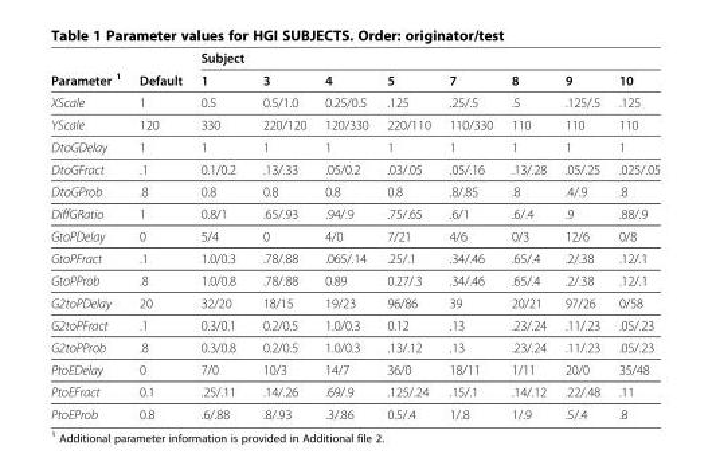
<table><thead><tr><td rowspan="2">Parameter <sup>1</sup></td><td rowspan="2">Default</td><td rowspan="2">Subject 1</td><td rowspan="2">3</td><td rowspan="2">4</td><td rowspan="2">5</td><td rowspan="2">7</td><td rowspan="2">8</td><td rowspan="2">9</td><td rowspan="2">10</td></tr><tr></tr></thead><tbody><tr><td>XScale</td><td>1</td><td>0.5</td><td>0.5/1.0</td><td>0.25/0.5</td><td>.125</td><td>.25/.5</td><td>.5</td><td>.125/.5</td><td>.125</td></tr><tr><td>YScale</td><td>120</td><td>330</td><td>220/120</td><td>120/330</td><td>220/110</td><td>110/330</td><td>110</td><td>110</td><td>110</td></tr><tr><td>DtoGDelay</td><td>1</td><td>1</td><td>1</td><td>1</td><td>1</td><td>1</td><td>1</td><td>1</td><td>1</td></tr><tr><td>DtoGFract</td><td>.1</td><td>0.1/0.2</td><td>.13/.33</td><td>.05/0.2</td><td>.03/.05</td><td>.05/.16</td><td>.13/.28</td><td>.05/.25</td><td>.025/.05</td></tr><tr><td>DtoGProb</td><td>.8</td><td>0.8</td><td>0.8</td><td>0.8</td><td>0.8</td><td>.8/.85</td><td>.8</td><td>.4/.9</td><td>.8</td></tr><tr><td>DiffGRatio</td><td>1</td><td>0.8/1</td><td>.65/.93</td><td>.94/.9</td><td>.75/.65</td><td>.6/1</td><td>.6/.4</td><td>.9</td><td>.88/.9</td></tr><tr><td>GtoPDelay</td><td>0</td><td>5/4</td><td>0</td><td>4/0</td><td>7/21</td><td>4/6</td><td>0/3</td><td>12/6</td><td>0/8</td></tr><tr><td>GtoPFract</td><td>.1</td><td>1.0/0.3</td><td>.78/.88</td><td>.065/.14</td><td>.25/.1</td><td>.34/.46</td><td>.65/.4</td><td>.2/.38</td><td>.12/.1</td></tr><tr><td>GtoPProb</td><td>.8</td><td>1.0/0.8</td><td>.78/.88</td><td>0.89</td><td>0.27/.3</td><td>.34/.46</td><td>.65/.4</td><td>.2/.38</td><td>.12/.1</td></tr><tr><td>G2toPDelay</td><td>20</td><td>32/20</td><td>18/15</td><td>19/23</td><td>96/86</td><td>39</td><td>20/21</td><td>97/26</td><td>0/58</td></tr><tr><td>G2toPFract</td><td>.1</td><td>0.3/0.1</td><td>0.2/0.5</td><td>1.0/0.3</td><td>0.12</td><td>.13</td><td>.23/.24</td><td>.11/.23</td><td>.05/.23</td></tr><tr><td>G2toPProb</td><td>.8</td><td>0.3/0.8</td><td>0.2/0.5</td><td>1.0/0.3</td><td>.13/.12</td><td>.13</td><td>.23/.24</td><td>.11/.23</td><td>.05/.23</td></tr><tr><td>PtoEDelay</td><td>0</td><td>7/0</td><td>10/3</td><td>14/7</td><td>36/0</td><td>18/11</td><td>1/11</td><td>20/0</td><td>35/48</td></tr><tr><td>PtoEFract</td><td>0.1</td><td>.25/.11</td><td>.14/.26</td><td>.69/.9</td><td>.125/.24</td><td>.15/.1</td><td>.14/.12</td><td>.22/.48</td><td>.11</td></tr><tr><td>PtoEProb</td><td>0.8</td><td>.6/.88</td><td>.8/.93</td><td>.3/.86</td><td>0.5/.4</td><td>1/.8</td><td>1/.9</td><td>.5/.4</td><td>.8</td></tr></tbody></table>